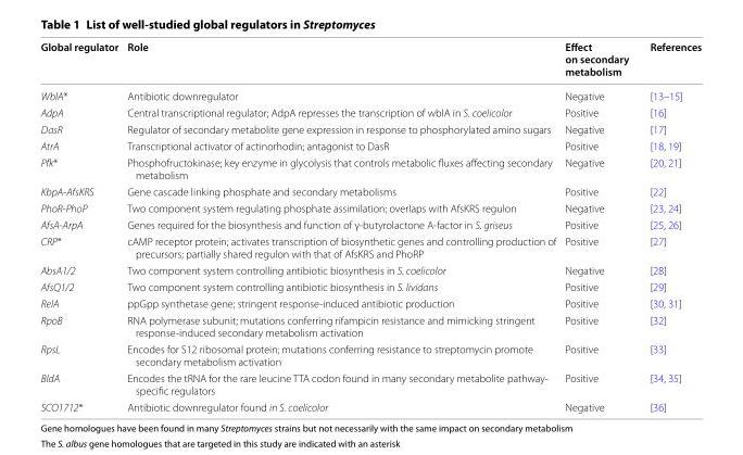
<table><thead><tr><td>Global regulator</td><td>Role</td><td>Effect on secondary metabolism</td><td>References</td></tr></thead><tbody><tr><td>WblA*</td><td>Antibiotic downregulator</td><td>Negative</td><td>[13–15]</td></tr><tr><td>AdpA</td><td>Central transcriptional regulator; AdpA represses the transcription of wblA in S. coelicolor</td><td>Positive</td><td>[16]</td></tr><tr><td>DasR</td><td>Regulator of secondary metabolite gene expression in response to phosphorylated amino sugars</td><td>Negative</td><td>[17]</td></tr><tr><td>AtrA</td><td>Transcriptional activator of actinorhodin; antagonist to DasR</td><td>Positive</td><td>[18, 19]</td></tr><tr><td>Pfk*</td><td>Phosphofructokinase; key enzyme in glycolysis that controls metabolic fluxes affecting secondary metabolism</td><td>Negative</td><td>[20, 21]</td></tr><tr><td>KbpA-AfsKRS</td><td>Gene cascade linking phosphate and secondary metabolisms</td><td>Positive</td><td>[22]</td></tr><tr><td>PhoR-PhoP</td><td>Two component system regulating phosphate assimilation; overlaps with AfsKRS regulon</td><td>Negative</td><td>[23, 24]</td></tr><tr><td>AfsA-ArpA</td><td>Genes required for the biosynthesis and function of γ-butyrolactone A-factor in S. griseus</td><td>Positive</td><td>[25, 26]</td></tr><tr><td>CRP*</td><td>cAMP receptor protein; activates transcription of biosynthetic genes and controlling production of precursors; partially shared regulon with that of AfsKRS and PhoRP</td><td>Positive</td><td>[27]</td></tr><tr><td>AbsA1/2</td><td>Two component system controlling antibiotic biosynthesis in S. coelicolor</td><td>Negative</td><td>[28]</td></tr><tr><td>AfsQ1/2</td><td>Two component system controlling antibiotic biosynthesis in S. lividans</td><td>Positive</td><td>[29]</td></tr><tr><td>RelA</td><td>ppGpp synthetase gene; stringent response-induced antibiotic production</td><td>Positive</td><td>[30, 31]</td></tr><tr><td>RpoB</td><td>RNA polymerase subunit; mutations conferring rifampicin resistance and mimicking stringent response-induced secondary metabolism activation</td><td>Positive</td><td>[32]</td></tr><tr><td>RpsL</td><td>Encodes for S12 ribosomal protein; mutations conferring resistance to streptomycin promote secondary metabolism activation</td><td>Positive</td><td>[33]</td></tr><tr><td>BldA</td><td>Encodes the tRNA for the rare leucine TTA codon found in many secondary metabolite pathway- specific regulators</td><td>Positive</td><td>[34, 35]</td></tr><tr><td>SCO1712*</td><td>Antibiotic downregulator found in S. coelicolor</td><td>Negative</td><td>[36]</td></tr></tbody></table>